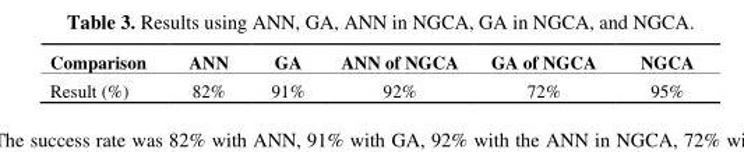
<table><thead><tr><td>Comparison</td><td>ANN</td><td>GA</td><td>ANN of NGCA</td><td>GA of NGCA</td><td>NGCA</td></tr></thead><tbody><tr><td>Result (%)</td><td>82%</td><td>91%</td><td>92%</td><td>72%</td><td>95%</td></tr></tbody></table>